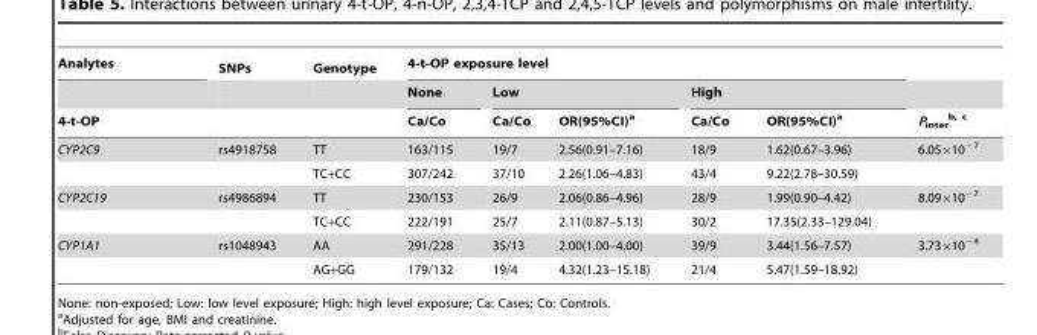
<table><thead><tr><td rowspan="3">Analytes 4-t-OP</td><td rowspan="3">SNPs</td><td rowspan="3">Genotype</td><td colspan="5">4-t-OP exposure level</td><td rowspan="3">P<sub>inter</sub> b, c</td></tr><tr><td rowspan="2">None Ca/Co</td><td colspan="2">Low</td><td colspan="2">High</td></tr><tr><td>Ca/Co</td><td>OR(95%CI)<sup>a</sup></td><td>Ca/Co</td><td>OR(95%CI)<sup>a</sup></td></tr></thead><tbody><tr><td rowspan="2">CYP2C9</td><td>rs4918758</td><td>TT</td><td>163/115</td><td>19/7</td><td>2.56(0.91–7.16)</td><td>18/9</td><td>1.62(0.67–3.96)</td><td>6.05×10<sup>−7</sup></td></tr><tr><td></td><td>TC+CC</td><td>307/242</td><td>37/10</td><td>2.26(1.06–4.83)</td><td>43/4</td><td>9.22(2.78–30.59)</td><td></td></tr><tr><td rowspan="2">CYP2C19</td><td>rs4986894</td><td>TT</td><td>230/153</td><td>26/9</td><td>2.06(0.86–4.96)</td><td>28/9</td><td>1.99(0.90–4.42)</td><td>8.09×10<sup>−7</sup></td></tr><tr><td></td><td>TC+CC</td><td>222/191</td><td>25/7</td><td>2.11(0.87–5.13)</td><td>30/2</td><td>17.35(2.33–129.04)</td><td></td></tr><tr><td rowspan="2">CYP1A1</td><td>rs1048943</td><td>AA</td><td>291/228</td><td>35/13</td><td>2.00(1.00–4.00)</td><td>39/9</td><td>3.44(1.56–7.57)</td><td>3.73×10<sup>−4</sup></td></tr><tr><td></td><td>AG+GG</td><td>179/132</td><td>19/4</td><td>4.32(1.23–15.18)</td><td>21/4</td><td>5.47(1.59–18.92)</td><td></td></tr></tbody></table>